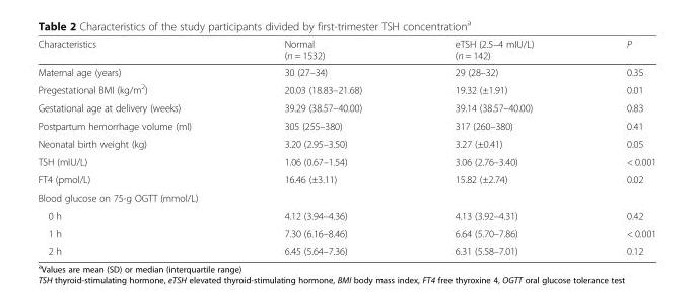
<table><thead><tr><td>Characteristics</td><td>Normal (n = 1532)</td><td>eTSH (2.5–4 mIU/L) (n = 142)</td><td>P</td></tr></thead><tbody><tr><td>Maternal age (years)</td><td>30 (27–34)</td><td>29 (28–32)</td><td>0.35</td></tr><tr><td>Pregestational BMI (kg/m<sup>2</sup>)</td><td>20.03 (18.83–21.68)</td><td>19.32 (±1.91)</td><td>0.01</td></tr><tr><td>Gestational age at delivery (weeks)</td><td>39.29 (38.57–40.00)</td><td>39.14 (38.57–40.00)</td><td>0.83</td></tr><tr><td>Postpartum hemorrhage volume (ml)</td><td>305 (255–380)</td><td>317 (260–380)</td><td>0.41</td></tr><tr><td>Neonatal birth weight (kg)</td><td>3.20 (2.95–3.50)</td><td>3.27 (±0.41)</td><td>0.05</td></tr><tr><td>TSH (mIU/L)</td><td>1.06 (0.67–1.54)</td><td>3.06 (2.76–3.40)</td><td>&lt; 0.001</td></tr><tr><td>FT4 (pmol/L)</td><td>16.46 (±3.11)</td><td>15.82 (±2.74)</td><td>0.02</td></tr><tr><td colspan="4">Blood glucose on 75-g OGTT (mmol/L)</td></tr><tr><td>0 h</td><td>4.12 (3.94–4.36)</td><td>4.13 (3.92–4.31)</td><td>0.42</td></tr><tr><td>1 h</td><td>7.30 (6.16–8.46)</td><td>6.64 (5.70–7.86)</td><td>&lt; 0.001</td></tr><tr><td>2 h</td><td>6.45 (5.64–7.36)</td><td>6.31 (5.58–7.01)</td><td>0.12</td></tr></tbody></table>